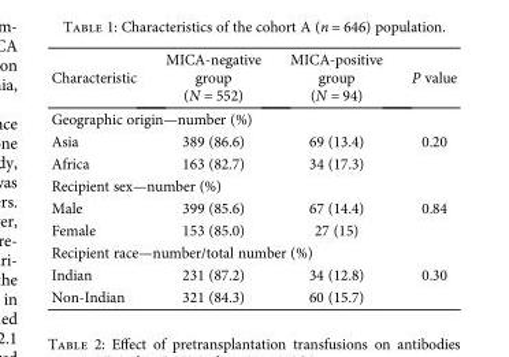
<table><thead><tr><td>Characteristic</td><td>MICA-negative group (N = 552)</td><td>MICA-positive group (N = 94)</td><td>P value</td></tr></thead><tbody><tr><td colspan="4">Geographic origin—number (%)</td></tr><tr><td>Asia</td><td>389 (86.6)</td><td>69 (13.4)</td><td>0.20</td></tr><tr><td>Africa</td><td>163 (82.7)</td><td>34 (17.3)</td><td></td></tr><tr><td colspan="4">Recipient sex—number (%)</td></tr><tr><td>Male</td><td>399 (85.6)</td><td>67 (14.4)</td><td>0.84</td></tr><tr><td>Female</td><td>153 (85.0)</td><td>27 (15)</td><td></td></tr><tr><td colspan="4">Recipient race—number/total number (%)</td></tr><tr><td>Indian</td><td>231 (87.2)</td><td>34 (12.8)</td><td>0.30</td></tr><tr><td>Non-Indian</td><td>321 (84.3)</td><td>60 (15.7)</td><td></td></tr></tbody></table>